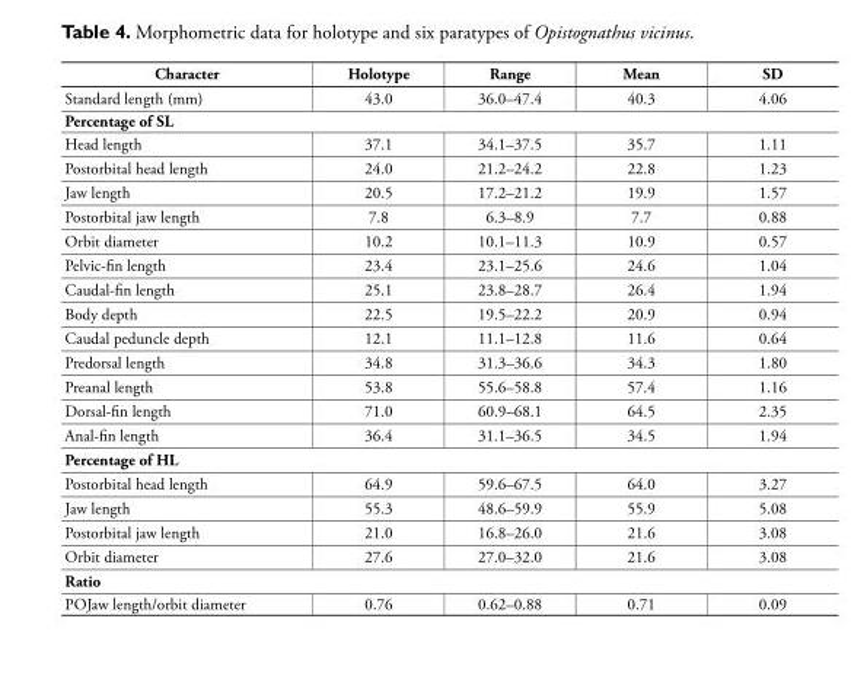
<table><thead><tr><td>Character</td><td>Holotype</td><td>Range</td><td>Mean</td><td>SD</td></tr></thead><tbody><tr><td>Standard length (mm)</td><td>43.0</td><td>36.0–47.4</td><td>40.3</td><td>4.06</td></tr><tr><td colspan="5">Percentage of SL</td></tr><tr><td>Head length</td><td>37.1</td><td>34.1–37.5</td><td>35.7</td><td>1.11</td></tr><tr><td>Postorbital head length</td><td>24.0</td><td>21.2–24.2</td><td>22.8</td><td>1.23</td></tr><tr><td>Jaw length</td><td>20.5</td><td>17.2–21.2</td><td>19.9</td><td>1.57</td></tr><tr><td>Postorbital jaw length</td><td>7.8</td><td>6.3–8.9</td><td>7.7</td><td>0.88</td></tr><tr><td>Orbit diameter</td><td>10.2</td><td>10.1–11.3</td><td>10.9</td><td>0.57</td></tr><tr><td>Pelvic-fin length</td><td>23.4</td><td>23.1–25.6</td><td>24.6</td><td>1.04</td></tr><tr><td>Caudal-fin length</td><td>25.1</td><td>23.8–28.7</td><td>26.4</td><td>1.94</td></tr><tr><td>Body depth</td><td>22.5</td><td>19.5–22.2</td><td>20.9</td><td>0.94</td></tr><tr><td>Caudal peduncle depth</td><td>12.1</td><td>11.1–12.8</td><td>11.6</td><td>0.64</td></tr><tr><td>Predorsal length</td><td>34.8</td><td>31.3–36.6</td><td>34.3</td><td>1.80</td></tr><tr><td>Preanal length</td><td>53.8</td><td>55.6–58.8</td><td>57.4</td><td>1.16</td></tr><tr><td>Dorsal-fin length</td><td>71.0</td><td>60.9–68.1</td><td>64.5</td><td>2.35</td></tr><tr><td>Anal-fin length</td><td>36.4</td><td>31.1–36.5</td><td>34.5</td><td>1.94</td></tr><tr><td colspan="5">Percentage of HL</td></tr><tr><td>Postorbital head length</td><td>64.9</td><td>59.6–67.5</td><td>64.0</td><td>3.27</td></tr><tr><td>Jaw length</td><td>55.3</td><td>48.6–59.9</td><td>55.9</td><td>5.08</td></tr><tr><td>Postorbital jaw length</td><td>21.0</td><td>16.8–26.0</td><td>21.6</td><td>3.08</td></tr><tr><td>Orbit diameter</td><td>27.6</td><td>27.0–32.0</td><td>21.6</td><td>3.08</td></tr><tr><td colspan="5">Ratio</td></tr><tr><td>POJaw length/orbit diameter</td><td>0.76</td><td>0.62–0.88</td><td>0.71</td><td>0.09</td></tr></tbody></table>